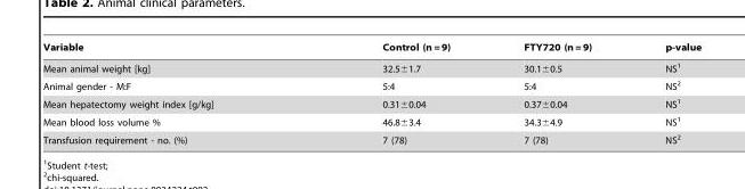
<table><thead><tr><td>Variable</td><td>Control (n = 9)</td><td>FTY720 (n = 9)</td><td>p-value</td></tr></thead><tbody><tr><td>Mean animal weight [kg]</td><td>32.5±1.7</td><td>30.1±0.5</td><td>NS<sup>1</sup></td></tr><tr><td>Animal gender - M:F</td><td>5:4</td><td>5:4</td><td>NS<sup>2</sup></td></tr><tr><td>Mean hepatectomy weight index [g/kg]</td><td>0.31±0.04</td><td>0.37±0.04</td><td>NS<sup>1</sup></td></tr><tr><td>Mean blood loss volume %</td><td>46.8±3.4</td><td>34.3±4.9</td><td>NS<sup>1</sup></td></tr><tr><td>Transfusion requirement - no. (%)</td><td>7 (78)</td><td>7 (78)</td><td>NS<sup>2</sup></td></tr></tbody></table>